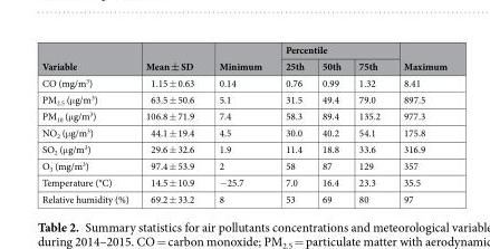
<table><thead><tr><td rowspan="2">Variable</td><td rowspan="2">Mean ± SD</td><td rowspan="2">Minimum</td><td colspan="3">Percentile</td><td rowspan="2">Maximum</td></tr><tr><td>25th</td><td>50th</td><td>75th</td></tr></thead><tbody><tr><td>CO (mg/m<sup>3</sup>)</td><td>1.15 ± 0.63</td><td>0.14</td><td>0.76</td><td>0.99</td><td>1.32</td><td>8.41</td></tr><tr><td>PM<sub>2.5</sub> (μg/m<sup>3</sup>)</td><td>63.5 ± 50.6</td><td>5.1</td><td>31.5</td><td>49.4</td><td>79.0</td><td>897.5</td></tr><tr><td>PM<sub>10</sub> (μg/m<sup>3</sup>)</td><td>106.8 ± 71.9</td><td>7.4</td><td>58.3</td><td>89.4</td><td>135.2</td><td>977.3</td></tr><tr><td>NO<sub>2</sub> (μg/m<sup>3</sup>)</td><td>44.1 ± 19.4</td><td>4.5</td><td>30.0</td><td>40.2</td><td>54.1</td><td>175.8</td></tr><tr><td>SO<sub>2</sub> (μg/m<sup>3</sup>)</td><td>29.6 ± 32.6</td><td>1.9</td><td>11.4</td><td>18.8</td><td>33.6</td><td>316.9</td></tr><tr><td>O<sub>3</sub> (mg/m<sup>3</sup>)</td><td>97.4 ± 53.9</td><td>2</td><td>58</td><td>87</td><td>129</td><td>357</td></tr><tr><td>Temperature (°C)</td><td>14.5 ± 10.9</td><td>−25.7</td><td>7.0</td><td>16.4</td><td>23.3</td><td>35.5</td></tr><tr><td>Relative humidity (%)</td><td>69.2 ± 33.2</td><td>8</td><td>53</td><td>69</td><td>80</td><td>97</td></tr></tbody></table>